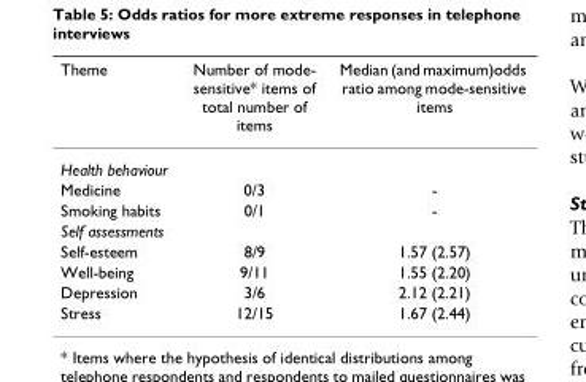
<table><thead><tr><td>Theme</td><td>Number of mode- sensitive* items of total number of items</td><td>Median (and maximum)odds ratio among mode-sensitive items</td></tr></thead><tbody><tr><td colspan="3">Health behaviour</td></tr><tr><td>Medicine</td><td>0/3</td><td>-</td></tr><tr><td>Smoking habits</td><td>0/1</td><td>-</td></tr><tr><td colspan="3">Self assessments</td></tr><tr><td>Self-esteem</td><td>8/9</td><td>1.57 (2.57)</td></tr><tr><td>Well-being</td><td>9/11</td><td>1.55 (2.20)</td></tr><tr><td>Depression</td><td>3/6</td><td>2.12 (2.21)</td></tr><tr><td>Stress</td><td>12/15</td><td>1.67 (2.44)</td></tr></tbody></table>